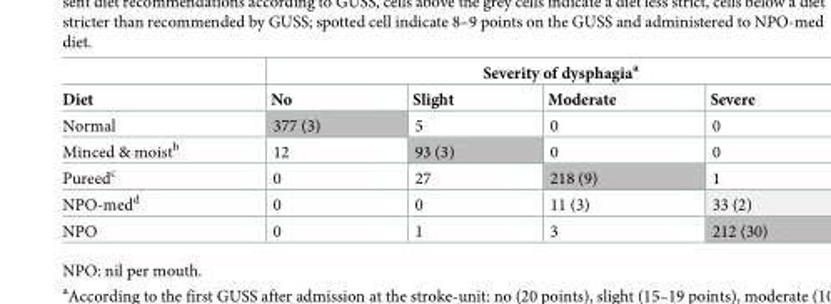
<table><thead><tr><td rowspan="2">Diet</td><td colspan="4">Severity of dysphagia<sup>a</sup></td></tr><tr><td>No</td><td>Slight</td><td>Moderate</td><td>Severe</td></tr></thead><tbody><tr><td>Normal</td><td>377 (3)</td><td>5</td><td>0</td><td>0</td></tr><tr><td>Minced &amp; moist<sup>b</sup></td><td>12</td><td>93 (3)</td><td>0</td><td>0</td></tr><tr><td>Pureed<sup>c</sup></td><td>0</td><td>27</td><td>218 (9)</td><td>1</td></tr><tr><td>NPO-med<sup>d</sup></td><td>0</td><td>0</td><td>11 (3)</td><td>33 (2)</td></tr><tr><td>NPO</td><td>0</td><td>1</td><td>3</td><td>212 (30)</td></tr></tbody></table>